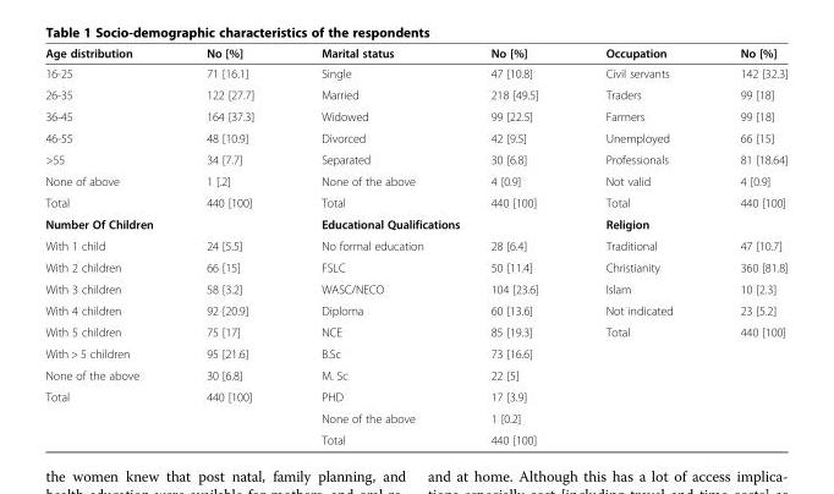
<table><thead><tr><td>Age distribution</td><td>No [%]</td><td>Marital status</td><td>No [%]</td><td>Occupation</td><td>No [%]</td></tr></thead><tbody><tr><td>16-25</td><td>71 [16.1]</td><td>Single</td><td>47 [10.8]</td><td>Civil servants</td><td>142 [32.3]</td></tr><tr><td>26-35</td><td>122 [27.7]</td><td>Married</td><td>218 [49.5]</td><td>Traders</td><td>99 [18]</td></tr><tr><td>36-45</td><td>164 [37.3]</td><td>Widowed</td><td>99 [22.5]</td><td>Farmers</td><td>99 [18]</td></tr><tr><td>46-55</td><td>48 [10.9]</td><td>Divorced</td><td>42 [9.5]</td><td>Unemployed</td><td>66 [15]</td></tr><tr><td>&gt;55</td><td>34 [7.7]</td><td>Separated</td><td>30 [6.8]</td><td>Professionals</td><td>81 [18.64]</td></tr><tr><td>None of above</td><td>1 [.2]</td><td>None of the above</td><td>4 [0.9]</td><td>Not valid</td><td>4 [0.9]</td></tr><tr><td>Total</td><td>440 [100]</td><td>Total</td><td>440 [100]</td><td>Total</td><td>440 [100]</td></tr><tr><td colspan="2">Number Of Children</td><td colspan="2">Educational Qualifications</td><td colspan="2">Religion</td></tr><tr><td>With 1 child</td><td>24 [5.5]</td><td>No formal education</td><td>28 [6.4]</td><td>Traditional</td><td>47 [10.7]</td></tr><tr><td>With 2 children</td><td>66 [15]</td><td>FSLC</td><td>50 [11.4]</td><td>Christianity</td><td>360 [81.8]</td></tr><tr><td>With 3 children</td><td>58 [3.2]</td><td>WASC/NECO</td><td>104 [23.6]</td><td>Islam</td><td>10 [2.3]</td></tr><tr><td>With 4 children</td><td>92 [20.9]</td><td>Diploma</td><td>60 [13.6]</td><td>Not indicated</td><td>23 [5.2]</td></tr><tr><td>With 5 children</td><td>75 [17]</td><td>NCE</td><td>85 [19.3]</td><td>Total</td><td>440 [100]</td></tr><tr><td>With &gt; 5 children</td><td>95 [21.6]</td><td>B.Sc</td><td>73 [16.6]</td><td></td><td></td></tr><tr><td>None of the above</td><td>30 [6.8]</td><td>M. Sc</td><td>22 [5]</td><td></td><td></td></tr><tr><td rowspan="3">Total</td><td>440 [100]</td><td>PHD</td><td>17 [3.9]</td><td></td><td></td></tr><tr><td></td><td>None of the above</td><td>1 [0.2]</td><td></td><td></td></tr><tr><td></td><td>Total</td><td>440 [100]</td><td></td><td></td></tr></tbody></table>